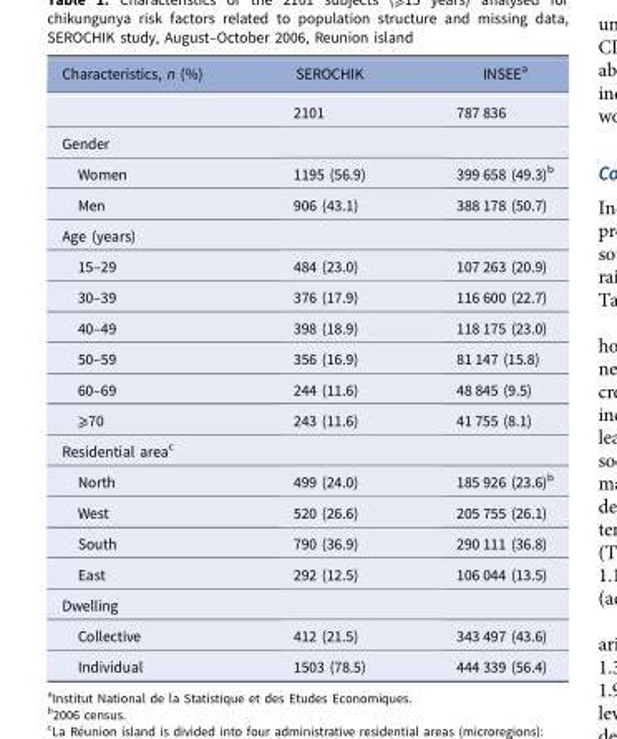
<table><thead><tr><td>Characteristics, n (%)</td><td>SEROCHIK</td><td>INSEE<sup>a</sup></td></tr></thead><tbody><tr><td></td><td>2101</td><td>787 836</td></tr><tr><td colspan="3">Gender</td></tr><tr><td>Women</td><td>1195 (56.9)</td><td>399 658 (49.3)<sup>b</sup></td></tr><tr><td>Men</td><td>906 (43.1)</td><td>388 178 (50.7)</td></tr><tr><td colspan="3">Age (years)</td></tr><tr><td>15–29</td><td>484 (23.0)</td><td>107 263 (20.9)</td></tr><tr><td>30–39</td><td>376 (17.9)</td><td>116 600 (22.7)</td></tr><tr><td>40–49</td><td>398 (18.9)</td><td>118 175 (23.0)</td></tr><tr><td>50–59</td><td>356 (16.9)</td><td>81 147 (15.8)</td></tr><tr><td>60–69</td><td>244 (11.6)</td><td>48 845 (9.5)</td></tr><tr><td>⩾70</td><td>243 (11.6)</td><td>41 755 (8.1)</td></tr><tr><td colspan="3">Residential area<sup>c</sup></td></tr><tr><td>North</td><td>499 (24.0)</td><td>185 926 (23.6)<sup>b</sup></td></tr><tr><td>West</td><td>520 (26.6)</td><td>205 755 (26.1)</td></tr><tr><td>South</td><td>790 (36.9)</td><td>290 111 (36.8)</td></tr><tr><td>East</td><td>292 (12.5)</td><td>106 044 (13.5)</td></tr><tr><td colspan="3">Dwelling</td></tr><tr><td>Collective</td><td>412 (21.5)</td><td>343 497 (43.6)</td></tr><tr><td>Individual</td><td>1503 (78.5)</td><td>444 339 (56.4)</td></tr></tbody></table>